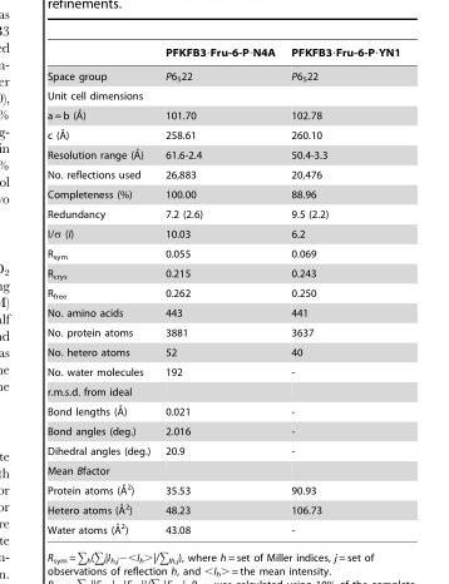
<table><thead><tr><td></td><td>PFKFB3·Fru-6-P·N4A</td><td>PFKFB3·Fru-6-P·YN1</td></tr></thead><tbody><tr><td>Space group</td><td>P6<sub>5</sub>22</td><td>P6<sub>5</sub>22</td></tr><tr><td colspan="3">Unit cell dimensions</td></tr><tr><td>a = b (A˚)</td><td>101.70</td><td>102.78</td></tr><tr><td>c (A˚)</td><td>258.61</td><td>260.10</td></tr><tr><td>Resolution range (A˚)</td><td>61.6-2.4</td><td>50.4-3.3</td></tr><tr><td>No. reflections used</td><td>26,883</td><td>20,476</td></tr><tr><td>Completeness (%)</td><td>100.00</td><td>88.96</td></tr><tr><td>Redundancy</td><td>7.2 (2.6)</td><td>9.5 (2.2)</td></tr><tr><td>I/σ (I)</td><td>10.03</td><td>6.2</td></tr><tr><td>R<sub>sym</sub></td><td>0.055</td><td>0.069</td></tr><tr><td>R<sub>crys</sub></td><td>0.215</td><td>0.243</td></tr><tr><td>R<sub>free</sub></td><td>0.262</td><td>0.250</td></tr><tr><td>No. amino acids</td><td>443</td><td>441</td></tr><tr><td>No. protein atoms</td><td>3881</td><td>3637</td></tr><tr><td>No. hetero atoms</td><td>52</td><td>40</td></tr><tr><td>No. water molecules</td><td>192</td><td>-</td></tr><tr><td colspan="3">r.m.s.d. from ideal</td></tr><tr><td>Bond lengths (A˚)</td><td>0.021</td><td>-</td></tr><tr><td>Bond angles (deg.)</td><td>2.016</td><td>-</td></tr><tr><td>Dihedral angles (deg.)</td><td>20.9</td><td>-</td></tr><tr><td colspan="3">Mean Bfactor</td></tr><tr><td>Protein atoms (A˚ 2)</td><td>35.53</td><td>90.93</td></tr><tr><td>Hetero atoms (A˚2)</td><td>48.23</td><td>106.73</td></tr><tr><td>Water atoms (A˚ 2)</td><td>43.08</td><td>-</td></tr></tbody></table>